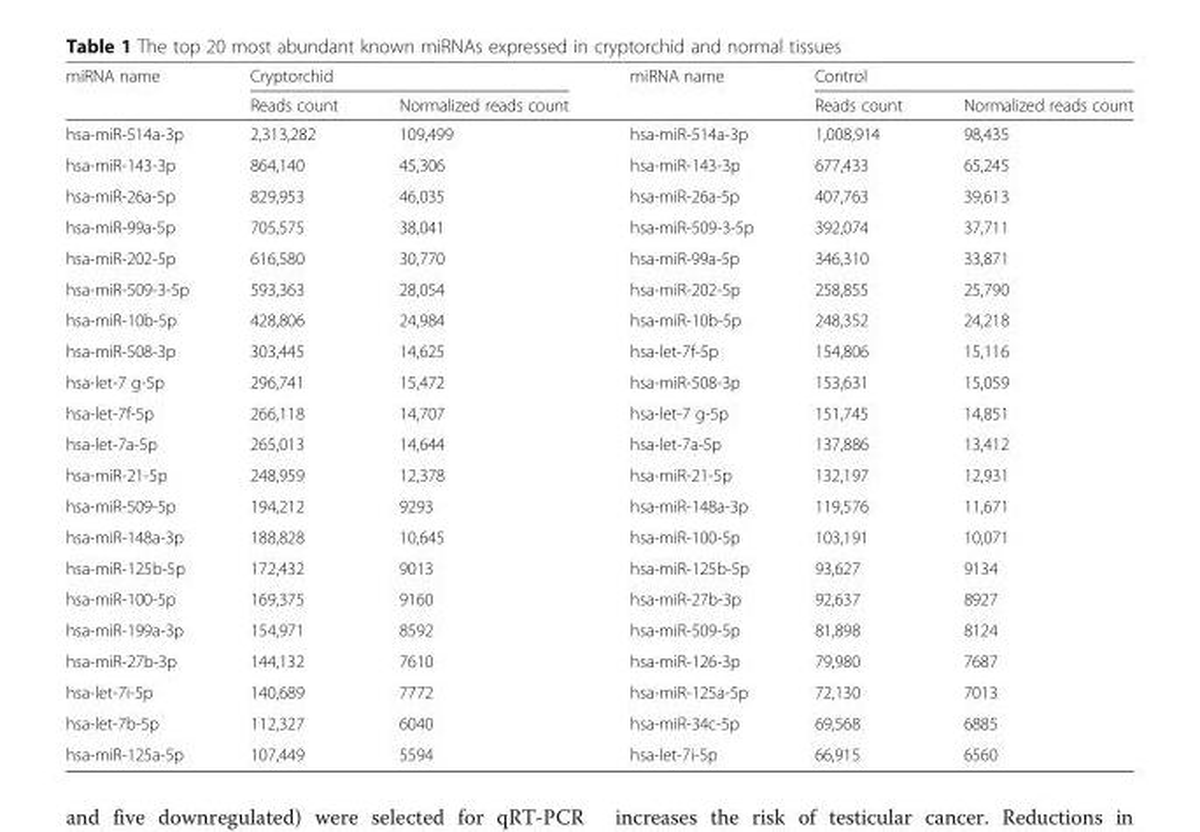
<table><thead><tr><td rowspan="2">miRNA name</td><td colspan="2">Cryptorchid</td><td rowspan="2">miRNA name</td><td colspan="2">Control</td></tr><tr><td>Reads count</td><td>Normalized reads count</td><td>Reads count</td><td>Normalized reads count</td></tr></thead><tbody><tr><td>hsa-miR-514a-3p</td><td>2,313,282</td><td>109,499</td><td>hsa-miR-514a-3p</td><td>1,008,914</td><td>98,435</td></tr><tr><td>hsa-miR-143-3p</td><td>864,140</td><td>45,306</td><td>hsa-miR-143-3p</td><td>677,433</td><td>65,245</td></tr><tr><td>hsa-miR-26a-5p</td><td>829,953</td><td>46,035</td><td>hsa-miR-26a-5p</td><td>407,763</td><td>39,613</td></tr><tr><td>hsa-miR-99a-5p</td><td>705,575</td><td>38,041</td><td>hsa-miR-509-3-5p</td><td>392,074</td><td>37,711</td></tr><tr><td>hsa-miR-202-5p</td><td>616,580</td><td>30,770</td><td>hsa-miR-99a-5p</td><td>346,310</td><td>33,871</td></tr><tr><td>hsa-miR-509-3-5p</td><td>593,363</td><td>28,054</td><td>hsa-miR-202-5p</td><td>258,855</td><td>25,790</td></tr><tr><td>hsa-miR-10b-5p</td><td>428,806</td><td>24,984</td><td>hsa-miR-10b-5p</td><td>248,352</td><td>24,218</td></tr><tr><td>hsa-miR-508-3p</td><td>303,445</td><td>14,625</td><td>hsa-let-7f-5p</td><td>154,806</td><td>15,116</td></tr><tr><td>hsa-let-7 g-5p</td><td>296,741</td><td>15,472</td><td>hsa-miR-508-3p</td><td>153,631</td><td>15,059</td></tr><tr><td>hsa-let-7f-5p</td><td>266,118</td><td>14,707</td><td>hsa-let-7 g-5p</td><td>151,745</td><td>14,851</td></tr><tr><td>hsa-let-7a-5p</td><td>265,013</td><td>14,644</td><td>hsa-let-7a-5p</td><td>137,886</td><td>13,412</td></tr><tr><td>hsa-miR-21-5p</td><td>248,959</td><td>12,378</td><td>hsa-miR-21-5p</td><td>132,197</td><td>12,931</td></tr><tr><td>hsa-miR-509-5p</td><td>194,212</td><td>9293</td><td>hsa-miR-148a-3p</td><td>119,576</td><td>11,671</td></tr><tr><td>hsa-miR-148a-3p</td><td>188,828</td><td>10,645</td><td>hsa-miR-100-5p</td><td>103,191</td><td>10,071</td></tr><tr><td>hsa-miR-125b-5p</td><td>172,432</td><td>9013</td><td>hsa-miR-125b-5p</td><td>93,627</td><td>9134</td></tr><tr><td>hsa-miR-100-5p</td><td>169,375</td><td>9160</td><td>hsa-miR-27b-3p</td><td>92,637</td><td>8927</td></tr><tr><td>hsa-miR-199a-3p</td><td>154,971</td><td>8592</td><td>hsa-miR-509-5p</td><td>81,898</td><td>8124</td></tr><tr><td>hsa-miR-27b-3p</td><td>144,132</td><td>7610</td><td>hsa-miR-126-3p</td><td>79,980</td><td>7687</td></tr><tr><td>hsa-let-7i-5p</td><td>140,689</td><td>7772</td><td>hsa-miR-125a-5p</td><td>72,130</td><td>7013</td></tr><tr><td>hsa-let-7b-5p</td><td>112,327</td><td>6040</td><td>hsa-miR-34c-5p</td><td>69,568</td><td>6885</td></tr><tr><td>hsa-miR-125a-5p</td><td>107,449</td><td>5594</td><td>hsa-let-7i-5p</td><td>66,915</td><td>6560</td></tr></tbody></table>